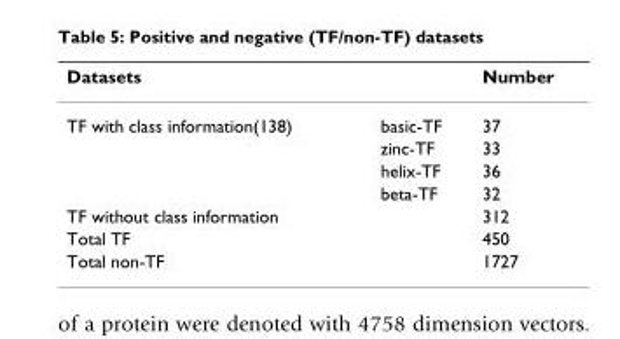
<table><thead><tr><td>Datasets</td><td></td><td>Number</td></tr></thead><tbody><tr><td rowspan="4">TF with class information(138)</td><td>basic-TF</td><td>37</td></tr><tr><td>zinc-TF</td><td>33</td></tr><tr><td>helix-TF</td><td>36</td></tr><tr><td>beta-TF</td><td>32</td></tr><tr><td>TF without class information</td><td></td><td>312</td></tr><tr><td>Total TF</td><td></td><td>450</td></tr><tr><td>Total non-TF</td><td></td><td>1727</td></tr></tbody></table>